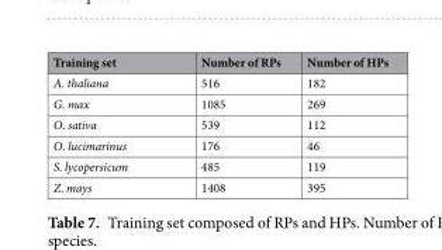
<table><thead><tr><td>Training set</td><td>Number of RPs</td><td>Number of HPs</td></tr></thead><tbody><tr><td>A. thaliana</td><td>516</td><td>182</td></tr><tr><td>G. max</td><td>1085</td><td>269</td></tr><tr><td>O. sativa</td><td>539</td><td>112</td></tr><tr><td>O. lucimarinus</td><td>176</td><td>46</td></tr><tr><td>S. lycopersicum</td><td>485</td><td>119</td></tr><tr><td>Z. mays</td><td>1408</td><td>395</td></tr></tbody></table>